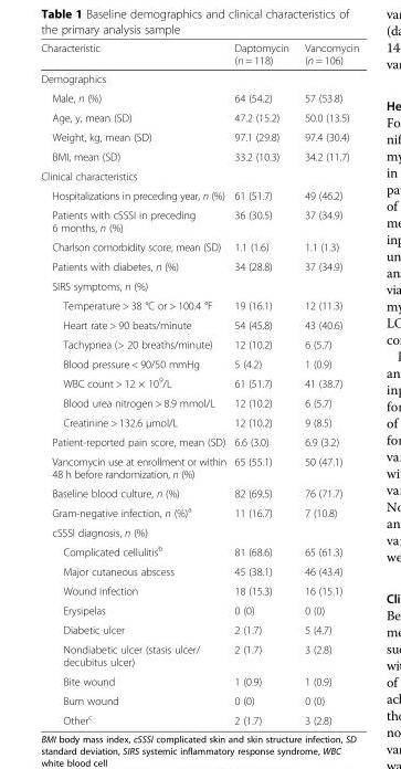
<table><thead><tr><td>Characteristic</td><td>Daptomycin (n = 118)</td><td>Vancomycin (n = 106)</td></tr></thead><tbody><tr><td colspan="3">Demographics</td></tr><tr><td>Male, n (%)</td><td>64 (54.2)</td><td>57 (53.8)</td></tr><tr><td>Age, y, mean (SD)</td><td>47.2 (15.2)</td><td>50.0 (13.5)</td></tr><tr><td>Weight, kg, mean (SD)</td><td>97.1 (29.8)</td><td>97.4 (30.4)</td></tr><tr><td>BMI, mean (SD)</td><td>33.2 (10.3)</td><td>34.2 (11.7)</td></tr><tr><td colspan="3">Clinical characteristics</td></tr><tr><td>Hospitalizations in preceding year, n (%)</td><td>61 (51.7)</td><td>49 (46.2)</td></tr><tr><td>Patients with cSSSI in preceding 6 months, n (%)</td><td>36 (30.5)</td><td>37 (34.9)</td></tr><tr><td>Charlson comorbidity score, mean (SD)</td><td>1.1 (1.6)</td><td>1.1 (1.3)</td></tr><tr><td>Patients with diabetes, n (%)</td><td>34 (28.8)</td><td>37 (34.9)</td></tr><tr><td colspan="3">SIRS symptoms, n (%)</td></tr><tr><td>Temperature &gt; 38 °C or &gt; 100.4 °F</td><td>19 (16.1)</td><td>12 (11.3)</td></tr><tr><td>Heart rate &gt; 90 beats/minute</td><td>54 (45.8)</td><td>43 (40.6)</td></tr><tr><td>Tachypnea (&gt; 20 breaths/minute)</td><td>12 (10.2)</td><td>6 (5.7)</td></tr><tr><td>Blood pressure &lt; 90/50 mmHg</td><td>5 (4.2)</td><td>1 (0.9)</td></tr><tr><td>WBC count &gt; 12 × 10<sup>9</sup>/L</td><td>61 (51.7)</td><td>41 (38.7)</td></tr><tr><td>Blood urea nitrogen &gt; 8.9 mmol/L</td><td>12 (10.2)</td><td>6 (5.7)</td></tr><tr><td>Creatinine &gt; 132.6 μmol/L</td><td>12 (10.2)</td><td>9 (8.5)</td></tr><tr><td>Patient-reported pain score, mean (SD)</td><td>6.6 (3.0)</td><td>6.9 (3.2)</td></tr><tr><td>Vancomycin use at enrollment or within 48 h before randomization, n (%)</td><td>65 (55.1)</td><td>50 (47.1)</td></tr><tr><td>Baseline blood culture, n (%)</td><td>82 (69.5)</td><td>76 (71.7)</td></tr><tr><td>Gram-negative infection, n (%)<sup>a</sup></td><td>11 (16.7)</td><td>7 (10.8)</td></tr><tr><td colspan="3">cSSSI diagnosis, n (%)</td></tr><tr><td>Complicated cellulitis<sup>b</sup></td><td>81 (68.6)</td><td>65 (61.3)</td></tr><tr><td>Major cutaneous abscess</td><td>45 (38.1)</td><td>46 (43.4)</td></tr><tr><td>Wound infection</td><td>18 (15.3)</td><td>16 (15.1)</td></tr><tr><td>Erysipelas</td><td>0 (0)</td><td>0 (0)</td></tr><tr><td>Diabetic ulcer</td><td>2 (1.7)</td><td>5 (4.7)</td></tr><tr><td>Nondiabetic ulcer (stasis ulcer/ decubitus ulcer)</td><td>2 (1.7)</td><td>3 (2.8)</td></tr><tr><td>Bite wound</td><td>1 (0.9)</td><td>1 (0.9)</td></tr><tr><td>Burn wound</td><td>0 (0)</td><td>0 (0)</td></tr><tr><td>Other<sup>c</sup></td><td>2 (1.7)</td><td>3 (2.8)</td></tr></tbody></table>